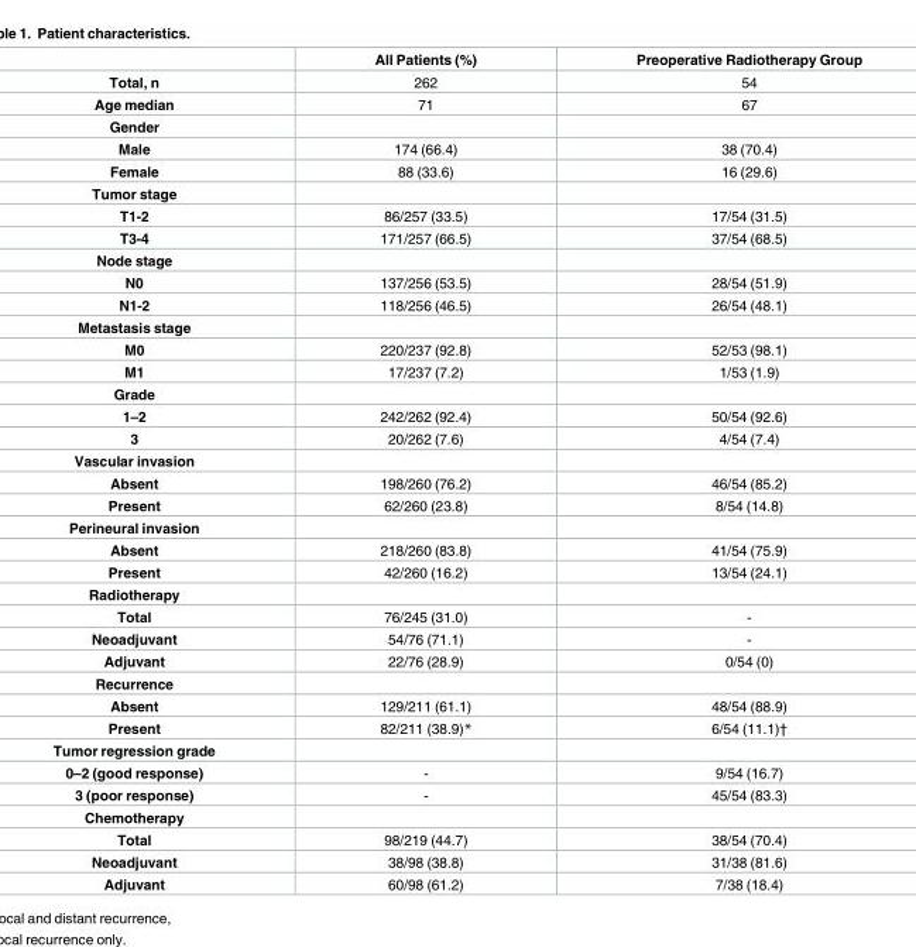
<table><thead><tr><td></td><td>All Patients (%)</td><td>Preoperative Radiotherapy Group</td></tr></thead><tbody><tr><td>Total, n</td><td>262</td><td>54</td></tr><tr><td>Age median</td><td>71</td><td>67</td></tr><tr><td colspan="3">Gender</td></tr><tr><td>Male</td><td>174 (66.4)</td><td>38 (70.4)</td></tr><tr><td>Female</td><td>88 (33.6)</td><td>16 (29.6)</td></tr><tr><td colspan="3">Tumor stage</td></tr><tr><td>T1-2</td><td>86/257 (33.5)</td><td>17/54 (31.5)</td></tr><tr><td>T3-4</td><td>171/257 (66.5)</td><td>37/54 (68.5)</td></tr><tr><td colspan="3">Node stage</td></tr><tr><td>N0</td><td>137/256 (53.5)</td><td>28/54 (51.9)</td></tr><tr><td>N1-2</td><td>118/256 (46.5)</td><td>26/54 (48.1)</td></tr><tr><td colspan="3">Metastasis stage</td></tr><tr><td>M0</td><td>220/237 (92.8)</td><td>52/53 (98.1)</td></tr><tr><td>M1</td><td>17/237 (7.2)</td><td>1/53 (1.9)</td></tr><tr><td colspan="3">Grade</td></tr><tr><td>1–2</td><td>242/262 (92.4)</td><td>50/54 (92.6)</td></tr><tr><td>3</td><td>20/262 (7.6)</td><td>4/54 (7.4)</td></tr><tr><td colspan="3">Vascular invasion</td></tr><tr><td>Absent</td><td>198/260 (76.2)</td><td>46/54 (85.2)</td></tr><tr><td>Present</td><td>62/260 (23.8)</td><td>8/54 (14.8)</td></tr><tr><td colspan="3">Perineural invasion</td></tr><tr><td>Absent</td><td>218/260 (83.8)</td><td>41/54 (75.9)</td></tr><tr><td>Present</td><td>42/260 (16.2)</td><td>13/54 (24.1)</td></tr><tr><td colspan="3">Radiotherapy</td></tr><tr><td>Total</td><td>76/245 (31.0)</td><td>-</td></tr><tr><td>Neoadjuvant</td><td>54/76 (71.1)</td><td>-</td></tr><tr><td>Adjuvant</td><td>22/76 (28.9)</td><td>0/54 (0)</td></tr><tr><td colspan="3">Recurrence</td></tr><tr><td>Absent</td><td>129/211 (61.1)</td><td>48/54 (88.9)</td></tr><tr><td>Present</td><td>82/211 (38.9)*</td><td>6/54 (11.1)†</td></tr><tr><td colspan="3">Tumor regression grade</td></tr><tr><td>0–2 (good response)</td><td>-</td><td>9/54 (16.7)</td></tr><tr><td>3 (poor response)</td><td>-</td><td>45/54 (83.3)</td></tr><tr><td colspan="3">Chemotherapy</td></tr><tr><td>Total</td><td>98/219 (44.7)</td><td>38/54 (70.4)</td></tr><tr><td>Neoadjuvant</td><td>38/98 (38.8)</td><td>31/38 (81.6)</td></tr><tr><td>Adjuvant</td><td>60/98 (61.2)</td><td>7/38 (18.4)</td></tr></tbody></table>